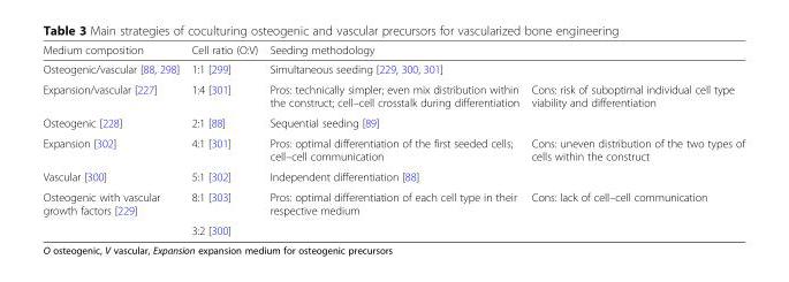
<table><thead><tr><td rowspan="3">Medium composition Osteogenic/vascular [88, 298] Expansion/vascular [227]</td><td rowspan="3">Cell ratio (O:V) 1:1 [299] 1:4 [301]</td><td rowspan="2" colspan="2">Seeding methodology Simultaneous seeding [229, 300, 301]</td></tr><tr></tr><tr><td>Pros: technically simpler; even mix distribution within the construct; cell–cell crosstalk during differentiation</td><td>Cons: risk of suboptimal individual cell type viability and differentiation</td></tr></thead><tbody><tr><td>Osteogenic [228]</td><td>2:1 [88]</td><td colspan="2">Sequential seeding [89]</td></tr><tr><td>Expansion [302]</td><td>4:1 [301]</td><td>Pros: optimal differentiation of the first seeded cells; cell–cell communication</td><td>Cons: uneven distribution of the two types of cells within the construct</td></tr><tr><td>Vascular [300]</td><td>5:1 [302]</td><td colspan="2">Independent differentiation [88]</td></tr><tr><td rowspan="2">Osteogenic with vascular growth factors [229]</td><td>8:1 [303]</td><td>Pros: optimal differentiation of each cell type in their respective medium</td><td>Cons: lack of cell–cell communication</td></tr><tr><td>3:2 [300]</td><td colspan="2"></td></tr></tbody></table>